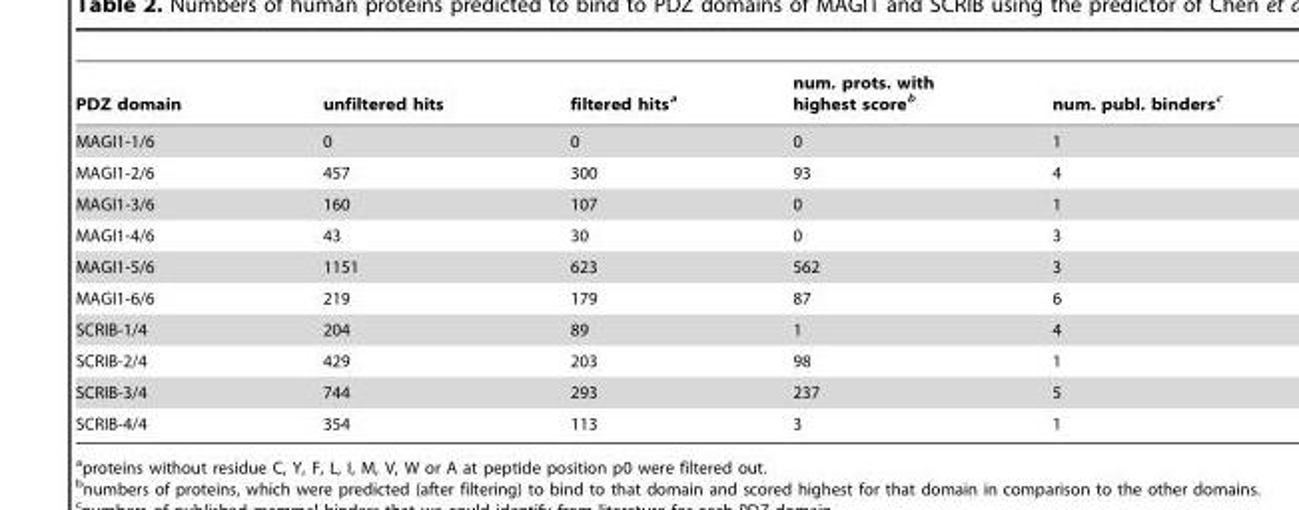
<table><thead><tr><td>PDZ domain</td><td>unfiltered hits</td><td>filtered hits<sup>a</sup></td><td>num. prots. with highest score<sup>b</sup></td><td>num. publ. binders<sup>c</sup></td></tr></thead><tbody><tr><td>MAGI1-1/6</td><td>0</td><td>0</td><td>0</td><td>1</td></tr><tr><td>MAGI1-2/6</td><td>457</td><td>300</td><td>93</td><td>4</td></tr><tr><td>MAGI1-3/6</td><td>160</td><td>107</td><td>0</td><td>1</td></tr><tr><td>MAGI1-4/6</td><td>43</td><td>30</td><td>0</td><td>3</td></tr><tr><td>MAGI1-5/6</td><td>1151</td><td>623</td><td>562</td><td>3</td></tr><tr><td>MAGI1-6/6</td><td>219</td><td>179</td><td>87</td><td>6</td></tr><tr><td>SCRIB-1/4</td><td>204</td><td>89</td><td>1</td><td>4</td></tr><tr><td>SCRIB-2/4</td><td>429</td><td>203</td><td>98</td><td>1</td></tr><tr><td>SCRIB-3/4</td><td>744</td><td>293</td><td>237</td><td>5</td></tr><tr><td>SCRIB-4/4</td><td>354</td><td>113</td><td>3</td><td>1</td></tr></tbody></table>